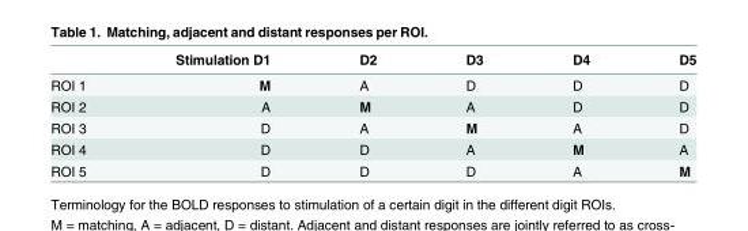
<table><thead><tr><td></td><td>Stimulation D1</td><td>D2</td><td>D3</td><td>D4</td><td>D5</td></tr></thead><tbody><tr><td>ROI 1</td><td>M</td><td>A</td><td>D</td><td>D</td><td>D</td></tr><tr><td>ROI 2</td><td>A</td><td>M</td><td>A</td><td>D</td><td>D</td></tr><tr><td>ROI 3</td><td>D</td><td>A</td><td>M</td><td>A</td><td>D</td></tr><tr><td>ROI 4</td><td>D</td><td>D</td><td>A</td><td>M</td><td>A</td></tr><tr><td>ROI 5</td><td>D</td><td>D</td><td>D</td><td>A</td><td>M</td></tr></tbody></table>